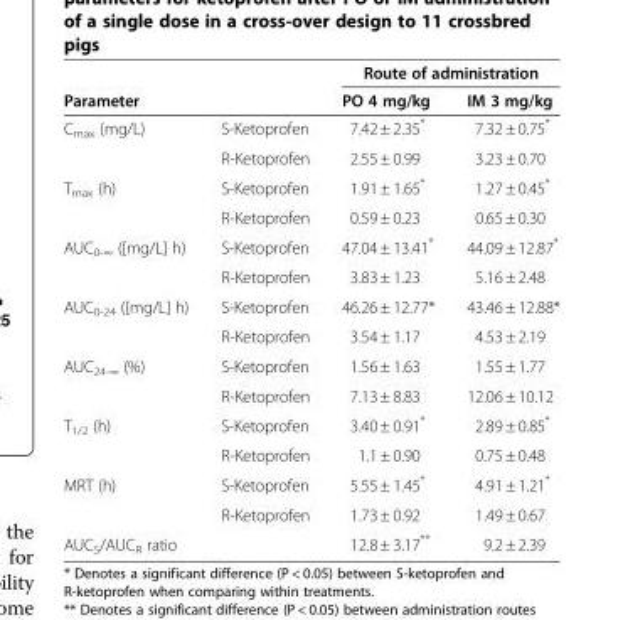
<table><thead><tr><td></td><td></td><td colspan="2">Route of administration</td></tr><tr><td colspan="2">Parameter</td><td>PO 4 mg/kg</td><td>IM 3 mg/kg</td></tr></thead><tbody><tr><td rowspan="2">C<sub>max</sub> (mg/L)</td><td>S-Ketoprofen</td><td>7.42 ± 2.35*</td><td>7.32 ± 0.75*</td></tr><tr><td>R-Ketoprofen</td><td>2.55 ± 0.99</td><td>3.23 ± 0.70</td></tr><tr><td rowspan="2">T<sub>max</sub> (h)</td><td>S-Ketoprofen</td><td>1.91 ± 1.65*</td><td>1.27 ± 0.45*</td></tr><tr><td>R-Ketoprofen</td><td>0.59 ± 0.23</td><td>0.65 ± 0.30</td></tr><tr><td rowspan="2">AUC<sub>0-∞</sub> ([mg/L] h)</td><td>S-Ketoprofen</td><td>47.04 ± 13.41*</td><td>44.09 ± 12.87*</td></tr><tr><td>R-Ketoprofen</td><td>3.83 ± 1.23</td><td>5.16 ± 2.48</td></tr><tr><td rowspan="2">AUC<sub>0-24</sub> ([mg/L] h)</td><td>S-Ketoprofen</td><td>46.26 ± 12.77*</td><td>43.46 ± 12.88*</td></tr><tr><td>R-Ketoprofen</td><td>3.54 ± 1.17</td><td>4.53 ± 2.19</td></tr><tr><td rowspan="2">AUC<sub>24-∞</sub> (%)</td><td>S-Ketoprofen</td><td>1.56 ± 1.63</td><td>1.55 ± 1.77</td></tr><tr><td>R-Ketoprofen</td><td>7.13 ± 8.83</td><td>12.06 ± 10.12</td></tr><tr><td rowspan="2">T<sub>1/2</sub> (h)</td><td>S-Ketoprofen</td><td>3.40 ± 0.91*</td><td>2.89 ± 0.85*</td></tr><tr><td>R-Ketoprofen</td><td>1.1 ± 0.90</td><td>0.75 ± 0.48</td></tr><tr><td rowspan="2">MRT (h)</td><td>S-Ketoprofen</td><td>5.55 ± 1.45*</td><td>4.91 ± 1.21*</td></tr><tr><td>R-Ketoprofen</td><td>1.73 ± 0.92</td><td>1.49 ± 0.67</td></tr><tr><td colspan="2">AUC<sub>S</sub>/AUC<sub>R</sub> ratio</td><td>12.8 ± 3.17**</td><td>9.2 ± 2.39</td></tr></tbody></table>